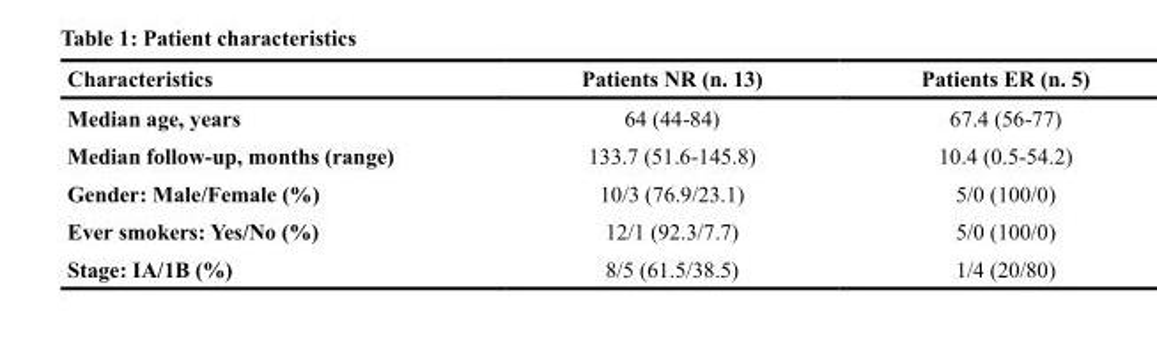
<table><thead><tr><td>Characteristics</td><td>Patients NR (n. 13)</td><td>Patients ER (n. 5)</td></tr></thead><tbody><tr><td>Median age, years</td><td>64 (44-84)</td><td>67.4 (56-77)</td></tr><tr><td>Median follow-up, months (range)</td><td>133.7 (51.6-145.8)</td><td>10.4 (0.5-54.2)</td></tr><tr><td>Gender: Male/Female (%)</td><td>10/3 (76.9/23.1)</td><td>5/0 (100/0)</td></tr><tr><td>Ever smokers: Yes/No (%)</td><td>12/1 (92.3/7.7)</td><td>5/0 (100/0)</td></tr><tr><td>Stage: IA/1B (%)</td><td>8/5 (61.5/38.5)</td><td>1/4 (20/80)</td></tr></tbody></table>